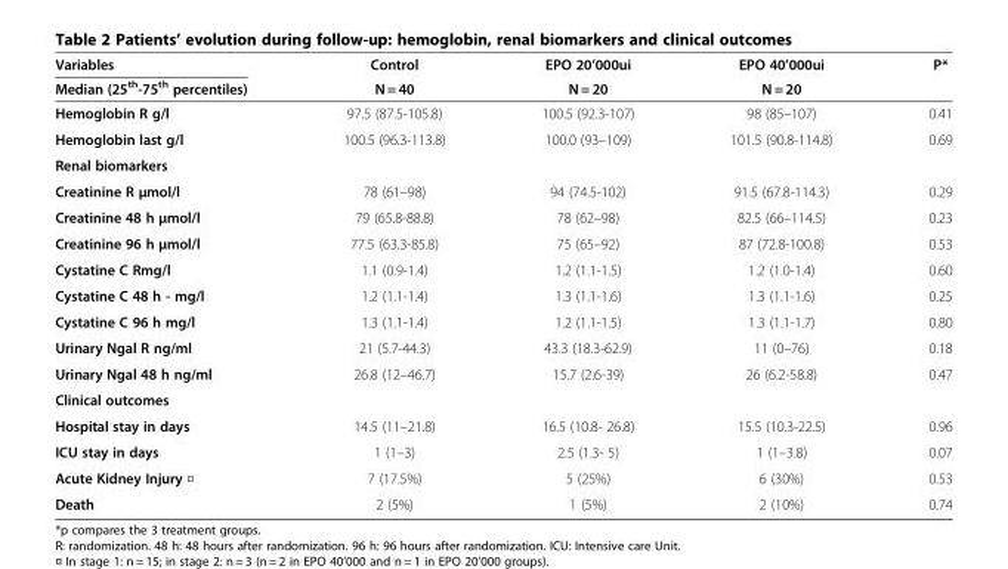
<table><thead><tr><td rowspan="2">Variables Median (25<sup>th</sup>-75<sup>th</sup> percentiles)</td><td rowspan="2">Control N = 40</td><td rowspan="2">EPO 20’000ui N = 20</td><td rowspan="2">EPO 40’000ui N = 20</td><td rowspan="2">P*</td></tr><tr></tr></thead><tbody><tr><td>Hemoglobin R g/l</td><td>97.5 (87.5-105.8)</td><td>100.5 (92.3-107)</td><td>98 (85–107)</td><td>0.41</td></tr><tr><td>Hemoglobin last g/l</td><td>100.5 (96.3-113.8)</td><td>100.0 (93–109)</td><td>101.5 (90.8-114.8)</td><td>0.69</td></tr><tr><td colspan="5">Renal biomarkers</td></tr><tr><td>Creatinine R μmol/l</td><td>78 (61–98)</td><td>94 (74.5-102)</td><td>91.5 (67.8-114.3)</td><td>0.29</td></tr><tr><td>Creatinine 48 h μmol/l</td><td>79 (65.8-88.8)</td><td>78 (62–98)</td><td>82.5 (66–114.5)</td><td>0.23</td></tr><tr><td>Creatinine 96 h μmol/l</td><td>77.5 (63.3-85.8)</td><td>75 (65–92)</td><td>87 (72.8-100.8)</td><td>0.53</td></tr><tr><td>Cystatine C Rmg/l</td><td>1.1 (0.9-1.4)</td><td>1.2 (1.1-1.5)</td><td>1.2 (1.0-1.4)</td><td>0.60</td></tr><tr><td>Cystatine C 48 h - mg/l</td><td>1.2 (1.1-1.4)</td><td>1.3 (1.1-1.6)</td><td>1.3 (1.1-1.6)</td><td>0.25</td></tr><tr><td>Cystatine C 96 h mg/l</td><td>1.3 (1.1-1.4)</td><td>1.2 (1.1-1.5)</td><td>1.3 (1.1-1.7)</td><td>0.80</td></tr><tr><td>Urinary Ngal R ng/ml</td><td>21 (5.7-44.3)</td><td>43.3 (18.3-62.9)</td><td>11 (0–76)</td><td>0.18</td></tr><tr><td>Urinary Ngal 48 h ng/ml</td><td>26.8 (12–46.7)</td><td>15.7 (2.6-39)</td><td>26 (6.2-58.8)</td><td>0.47</td></tr><tr><td colspan="5">Clinical outcomes</td></tr><tr><td>Hospital stay in days</td><td>14.5 (11–21.8)</td><td>16.5 (10.8- 26.8)</td><td>15.5 (10.3-22.5)</td><td>0.96</td></tr><tr><td>ICU stay in days</td><td>1 (1–3)</td><td>2.5 (1.3- 5)</td><td>1 (1–3.8)</td><td>0.07</td></tr><tr><td>Acute Kidney Injury ¤</td><td>7 (17.5%)</td><td>5 (25%)</td><td>6 (30%)</td><td>0.53</td></tr><tr><td>Death</td><td>2 (5%)</td><td>1 (5%)</td><td>2 (10%)</td><td>0.74</td></tr></tbody></table>